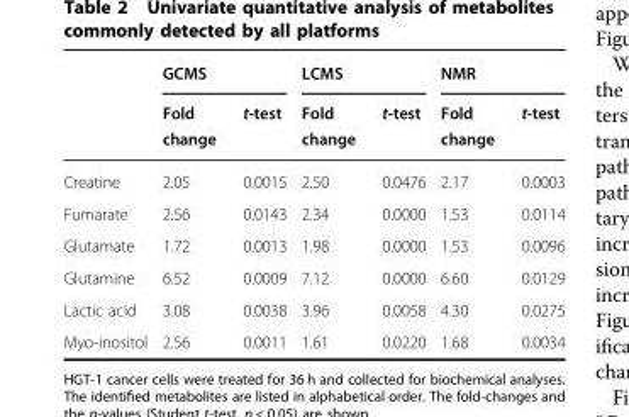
<table><thead><tr><td rowspan="2"></td><td colspan="2">GCMS</td><td colspan="2">LCMS</td><td colspan="2">NMR</td></tr><tr><td>Fold change</td><td>t-test</td><td>Fold change</td><td>t-test</td><td>Fold change</td><td>t-test</td></tr></thead><tbody><tr><td>Creatine</td><td>2.05</td><td>0.0015</td><td>2.50</td><td>0.0476</td><td>2.17</td><td>0.0003</td></tr><tr><td>Fumarate</td><td>2.56</td><td>0.0143</td><td>2.34</td><td>0.0000</td><td>1.53</td><td>0.0114</td></tr><tr><td>Glutamate</td><td>1.72</td><td>0.0013</td><td>1.98</td><td>0.0000</td><td>1.53</td><td>0.0096</td></tr><tr><td>Glutamine</td><td>6.52</td><td>0.0009</td><td>7.12</td><td>0.0000</td><td>6.60</td><td>0.0129</td></tr><tr><td>Lactic acid</td><td>3.08</td><td>0.0038</td><td>3.96</td><td>0.0058</td><td>4.30</td><td>0.0275</td></tr><tr><td>Myo-inositol</td><td>2.56</td><td>0.0011</td><td>1.61</td><td>0.0220</td><td>1.68</td><td>0.0034</td></tr></tbody></table>